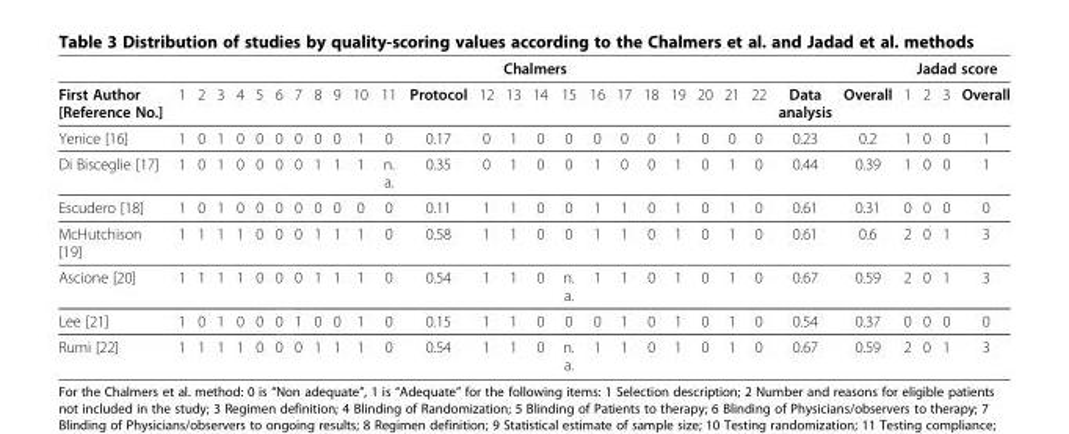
<table><thead><tr><td rowspan="2">First Author [Reference No.]</td><td colspan="25">Chalmers</td><td colspan="4">Jadad score</td></tr><tr><td>1</td><td>2</td><td>3</td><td>4</td><td>5</td><td>6</td><td>7</td><td>8</td><td>9</td><td>10</td><td>11</td><td>Protocol</td><td>12</td><td>13</td><td>14</td><td>15</td><td>16</td><td>17</td><td>18</td><td>19</td><td>20</td><td>21</td><td>22</td><td>Data analysis</td><td>Overall</td><td>1</td><td>2</td><td>3</td><td>Overall</td></tr></thead><tbody><tr><td>Yenice [16]</td><td>1</td><td>0</td><td>1</td><td>0</td><td>0</td><td>0</td><td>0</td><td>0</td><td>0</td><td>1</td><td>0</td><td>0.17</td><td>0</td><td>1</td><td>0</td><td>0</td><td>0</td><td>0</td><td>0</td><td>1</td><td>0</td><td>0</td><td>0</td><td>0.23</td><td>0.2</td><td>1</td><td>0</td><td>0</td><td>1</td></tr><tr><td>Di Bisceglie [17]</td><td>1</td><td>0</td><td>1</td><td>0</td><td>0</td><td>0</td><td>0</td><td>1</td><td>1</td><td>1</td><td>n. a.</td><td>0.35</td><td>0</td><td>1</td><td>0</td><td>0</td><td>1</td><td>0</td><td>0</td><td>1</td><td>0</td><td>1</td><td>0</td><td>0.44</td><td>0.39</td><td>1</td><td>0</td><td>0</td><td>1</td></tr><tr><td>Escudero [18]</td><td>1</td><td>0</td><td>1</td><td>0</td><td>0</td><td>0</td><td>0</td><td>0</td><td>0</td><td>0</td><td>0</td><td>0.11</td><td>1</td><td>1</td><td>0</td><td>0</td><td>1</td><td>1</td><td>0</td><td>1</td><td>0</td><td>1</td><td>0</td><td>0.61</td><td>0.31</td><td>0</td><td>0</td><td>0</td><td>0</td></tr><tr><td>McHutchison [19]</td><td>1</td><td>1</td><td>1</td><td>1</td><td>0</td><td>0</td><td>0</td><td>1</td><td>1</td><td>1</td><td>0</td><td>0.58</td><td>1</td><td>1</td><td>0</td><td>0</td><td>1</td><td>1</td><td>0</td><td>1</td><td>0</td><td>1</td><td>0</td><td>0.61</td><td>0.6</td><td>2</td><td>0</td><td>1</td><td>3</td></tr><tr><td>Ascione [20]</td><td>1</td><td>1</td><td>1</td><td>1</td><td>0</td><td>0</td><td>0</td><td>1</td><td>1</td><td>1</td><td>0</td><td>0.54</td><td>1</td><td>1</td><td>0</td><td>n. a.</td><td>1</td><td>1</td><td>0</td><td>1</td><td>0</td><td>1</td><td>0</td><td>0.67</td><td>0.59</td><td>2</td><td>0</td><td>1</td><td>3</td></tr><tr><td>Lee [21]</td><td>1</td><td>0</td><td>1</td><td>0</td><td>0</td><td>0</td><td>1</td><td>0</td><td>0</td><td>1</td><td>0</td><td>0.15</td><td>1</td><td>1</td><td>0</td><td>0</td><td>0</td><td>1</td><td>0</td><td>1</td><td>0</td><td>1</td><td>0</td><td>0.54</td><td>0.37</td><td>0</td><td>0</td><td>0</td><td>0</td></tr><tr><td>Rumi [22]</td><td>1</td><td>1</td><td>1</td><td>1</td><td>0</td><td>0</td><td>0</td><td>1</td><td>1</td><td>1</td><td>0</td><td>0.54</td><td>1</td><td>1</td><td>0</td><td>n. a.</td><td>1</td><td>1</td><td>0</td><td>1</td><td>0</td><td>1</td><td>0</td><td>0.67</td><td>0.59</td><td>2</td><td>0</td><td>1</td><td>3</td></tr></tbody></table>